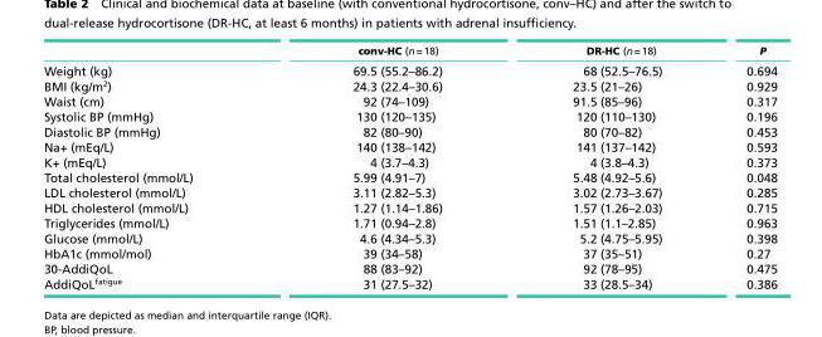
<table><thead><tr><td></td><td>conv-HC (n = 18)</td><td>DR-HC (n = 18)</td><td>P</td></tr></thead><tbody><tr><td>Weight (kg)</td><td>69.5 (55.2–86.2)</td><td>68 (52.5–76.5)</td><td>0.694</td></tr><tr><td>BMI (kg/m<sup>2</sup>)</td><td>24.3 (22.4–30.6)</td><td>23.5 (21–26)</td><td>0.929</td></tr><tr><td>Waist (cm)</td><td>92 (74–109)</td><td>91.5 (85–96)</td><td>0.317</td></tr><tr><td>Systolic BP (mmHg)</td><td>130 (120–135)</td><td>120 (110–130)</td><td>0.196</td></tr><tr><td>Diastolic BP (mmHg)</td><td>82 (80–90)</td><td>80 (70–82)</td><td>0.453</td></tr><tr><td>Na+ (mEq/L)</td><td>140 (138–142)</td><td>141 (137–142)</td><td>0.593</td></tr><tr><td>K+ (mEq/L)</td><td>4 (3.7–4.3)</td><td>4 (3.8–4.3)</td><td>0.373</td></tr><tr><td>Total cholesterol (mmol/L)</td><td>5.99 (4.91–7)</td><td>5.48 (4.92–5.6)</td><td>0.048</td></tr><tr><td>LDL cholesterol (mmol/L)</td><td>3.11 (2.82–5.3)</td><td>3.02 (2.73–3.67)</td><td>0.285</td></tr><tr><td>HDL cholesterol (mmol/L)</td><td>1.27 (1.14–1.86)</td><td>1.57 (1.26–2.03)</td><td>0.715</td></tr><tr><td>Triglycerides (mmol/L)</td><td>1.71 (0.94–2.8)</td><td>1.51 (1.1–2.85)</td><td>0.963</td></tr><tr><td>Glucose (mmol/L)</td><td>4.6 (4.34–5.3)</td><td>5.2 (4.75–5.95)</td><td>0.398</td></tr><tr><td>HbA1c (mmol/mol)</td><td>39 (34–58)</td><td>37 (35–51)</td><td>0.27</td></tr><tr><td>30-AddiQoL</td><td>88 (83–92)</td><td>92 (78–95)</td><td>0.475</td></tr><tr><td>AddiQoL<sup>fatigue</sup></td><td>31 (27.5–32)</td><td>33 (28.5–34)</td><td>0.386</td></tr></tbody></table>